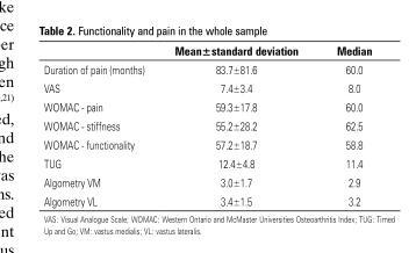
<table><thead><tr><td></td><td>Mean±standard deviation</td><td>Median</td></tr></thead><tbody><tr><td>Duration of pain (months)</td><td>83.7±81.6</td><td>60.0</td></tr><tr><td>VAS</td><td>7.4±3.4</td><td>8.0</td></tr><tr><td>WOMAC - pain</td><td>59.3±17.8</td><td>60.0</td></tr><tr><td>WOMAC - stiffness</td><td>55.2±28.2</td><td>62.5</td></tr><tr><td>WOMAC - functionality</td><td>57.2±18.7</td><td>58.8</td></tr><tr><td>TUG</td><td>12.4±4.8</td><td>11.4</td></tr><tr><td>Algometry VM</td><td>3.0±1.7</td><td>2.9</td></tr><tr><td>Algometry VL</td><td>3.4±1.5</td><td>3.2</td></tr></tbody></table>